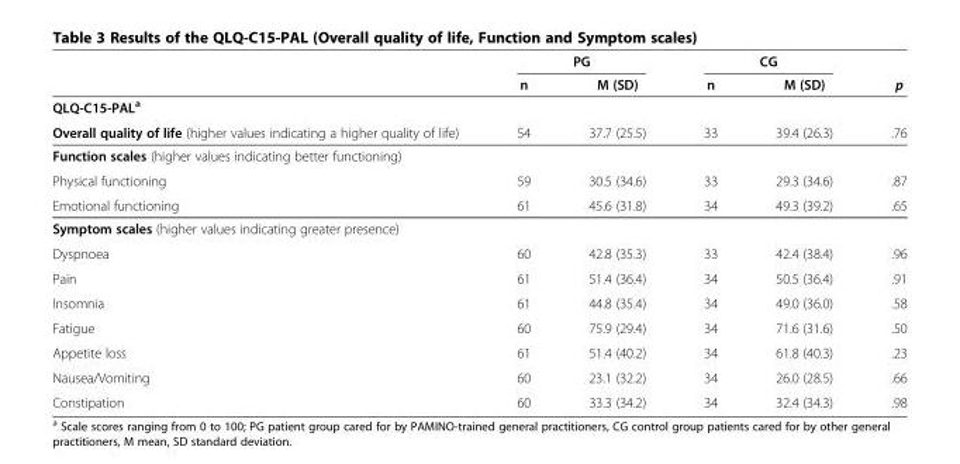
<table><thead><tr><td rowspan="2"></td><td colspan="2">PG</td><td colspan="2">CG</td><td rowspan="2">p</td></tr><tr><td>n</td><td>M (SD)</td><td>n</td><td>M (SD)</td></tr></thead><tbody><tr><td colspan="6">QLQ-C15-PAL<sup>a</sup></td></tr><tr><td>Overall quality of life (higher values indicating a higher quality of life)</td><td>54</td><td>37.7 (25.5)</td><td>33</td><td>39.4 (26.3)</td><td>.76</td></tr><tr><td colspan="6">Function scales (higher values indicating better functioning)</td></tr><tr><td>Physical functioning</td><td>59</td><td>30.5 (34.6)</td><td>33</td><td>29.3 (34.6)</td><td>.87</td></tr><tr><td>Emotional functioning</td><td>61</td><td>45.6 (31.8)</td><td>34</td><td>49.3 (39.2)</td><td>.65</td></tr><tr><td colspan="6">Symptom scales (higher values indicating greater presence)</td></tr><tr><td>Dyspnoea</td><td>60</td><td>42.8 (35.3)</td><td>33</td><td>42.4 (38.4)</td><td>.96</td></tr><tr><td>Pain</td><td>61</td><td>51.4 (36.4)</td><td>34</td><td>50.5 (36.4)</td><td>.91</td></tr><tr><td>Insomnia</td><td>61</td><td>44.8 (35.4)</td><td>34</td><td>49.0 (36.0)</td><td>.58</td></tr><tr><td>Fatigue</td><td>60</td><td>75.9 (29.4)</td><td>34</td><td>71.6 (31.6)</td><td>.50</td></tr><tr><td>Appetite loss</td><td>61</td><td>51.4 (40.2)</td><td>34</td><td>61.8 (40.3)</td><td>.23</td></tr><tr><td>Nausea/Vomiting</td><td>60</td><td>23.1 (32.2)</td><td>34</td><td>26.0 (28.5)</td><td>.66</td></tr><tr><td>Constipation</td><td>60</td><td>33.3 (34.2)</td><td>34</td><td>32.4 (34.3)</td><td>.98</td></tr></tbody></table>